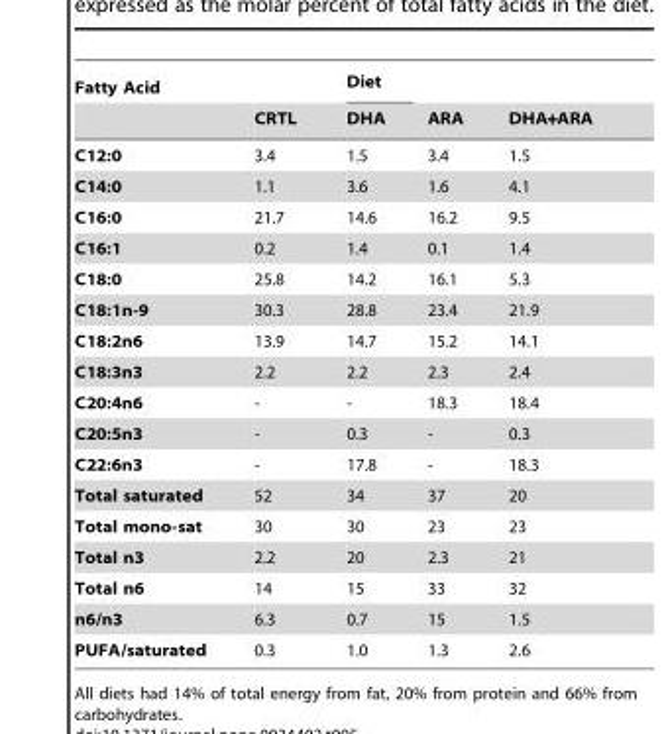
<table><thead><tr><td rowspan="2">Fatty Acid</td><td rowspan="2">CRTL</td><td rowspan="2">Diet DHA</td><td rowspan="2">ARA</td><td rowspan="2">DHA+ARA</td></tr><tr></tr></thead><tbody><tr><td>C12:0</td><td>3.4</td><td>1.5</td><td>3.4</td><td>1.5</td></tr><tr><td>C14:0</td><td>1.1</td><td>3.6</td><td>1.6</td><td>4.1</td></tr><tr><td>C16:0</td><td>21.7</td><td>14.6</td><td>16.2</td><td>9.5</td></tr><tr><td>C16:1</td><td>0.2</td><td>1.4</td><td>0.1</td><td>1.4</td></tr><tr><td>C18:0</td><td>25.8</td><td>14.2</td><td>16.1</td><td>5.3</td></tr><tr><td>C18:1n-9</td><td>30.3</td><td>28.8</td><td>23.4</td><td>21.9</td></tr><tr><td>C18:2n6</td><td>13.9</td><td>14.7</td><td>15.2</td><td>14.1</td></tr><tr><td>C18:3n3</td><td>2.2</td><td>2.2</td><td>2.3</td><td>2.4</td></tr><tr><td>C20:4n6</td><td>-</td><td>-</td><td>18.3</td><td>18.4</td></tr><tr><td>C20:5n3</td><td>-</td><td>0.3</td><td>-</td><td>0.3</td></tr><tr><td>C22:6n3</td><td>-</td><td>17.8</td><td>-</td><td>18.3</td></tr><tr><td>Total saturated</td><td>52</td><td>34</td><td>37</td><td>20</td></tr><tr><td>Total mono-sat</td><td>30</td><td>30</td><td>23</td><td>23</td></tr><tr><td>Total n3</td><td>2.2</td><td>20</td><td>2.3</td><td>21</td></tr><tr><td>Total n6</td><td>14</td><td>15</td><td>33</td><td>32</td></tr><tr><td>n6/n3</td><td>6.3</td><td>0.7</td><td>15</td><td>1.5</td></tr><tr><td>PUFA/saturated</td><td>0.3</td><td>1.0</td><td>1.3</td><td>2.6</td></tr></tbody></table>